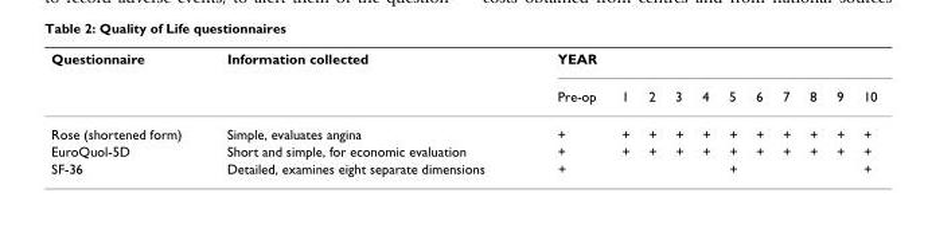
<table><thead><tr><td rowspan="2">Questionnaire</td><td rowspan="2">Information collected</td><td colspan="11">YEAR</td></tr><tr><td>Pre-op</td><td>1</td><td>2</td><td>3</td><td>4</td><td>5</td><td>6</td><td>7</td><td>8</td><td>9</td><td>10</td></tr></thead><tbody><tr><td>Rose (shortened form)</td><td>Simple, evaluates angina</td><td>+</td><td>+</td><td>+</td><td>+</td><td>+</td><td>+</td><td>+</td><td>+</td><td>+</td><td>+</td><td>+</td></tr><tr><td>EuroQuol-5D</td><td>Short and simple, for economic evaluation</td><td>+</td><td>+</td><td>+</td><td>+</td><td>+</td><td>+</td><td>+</td><td>+</td><td>+</td><td>+</td><td>+</td></tr><tr><td>SF-36</td><td>Detailed, examines eight separate dimensions</td><td>+</td><td></td><td></td><td></td><td></td><td>+</td><td></td><td></td><td></td><td></td><td>+</td></tr></tbody></table>